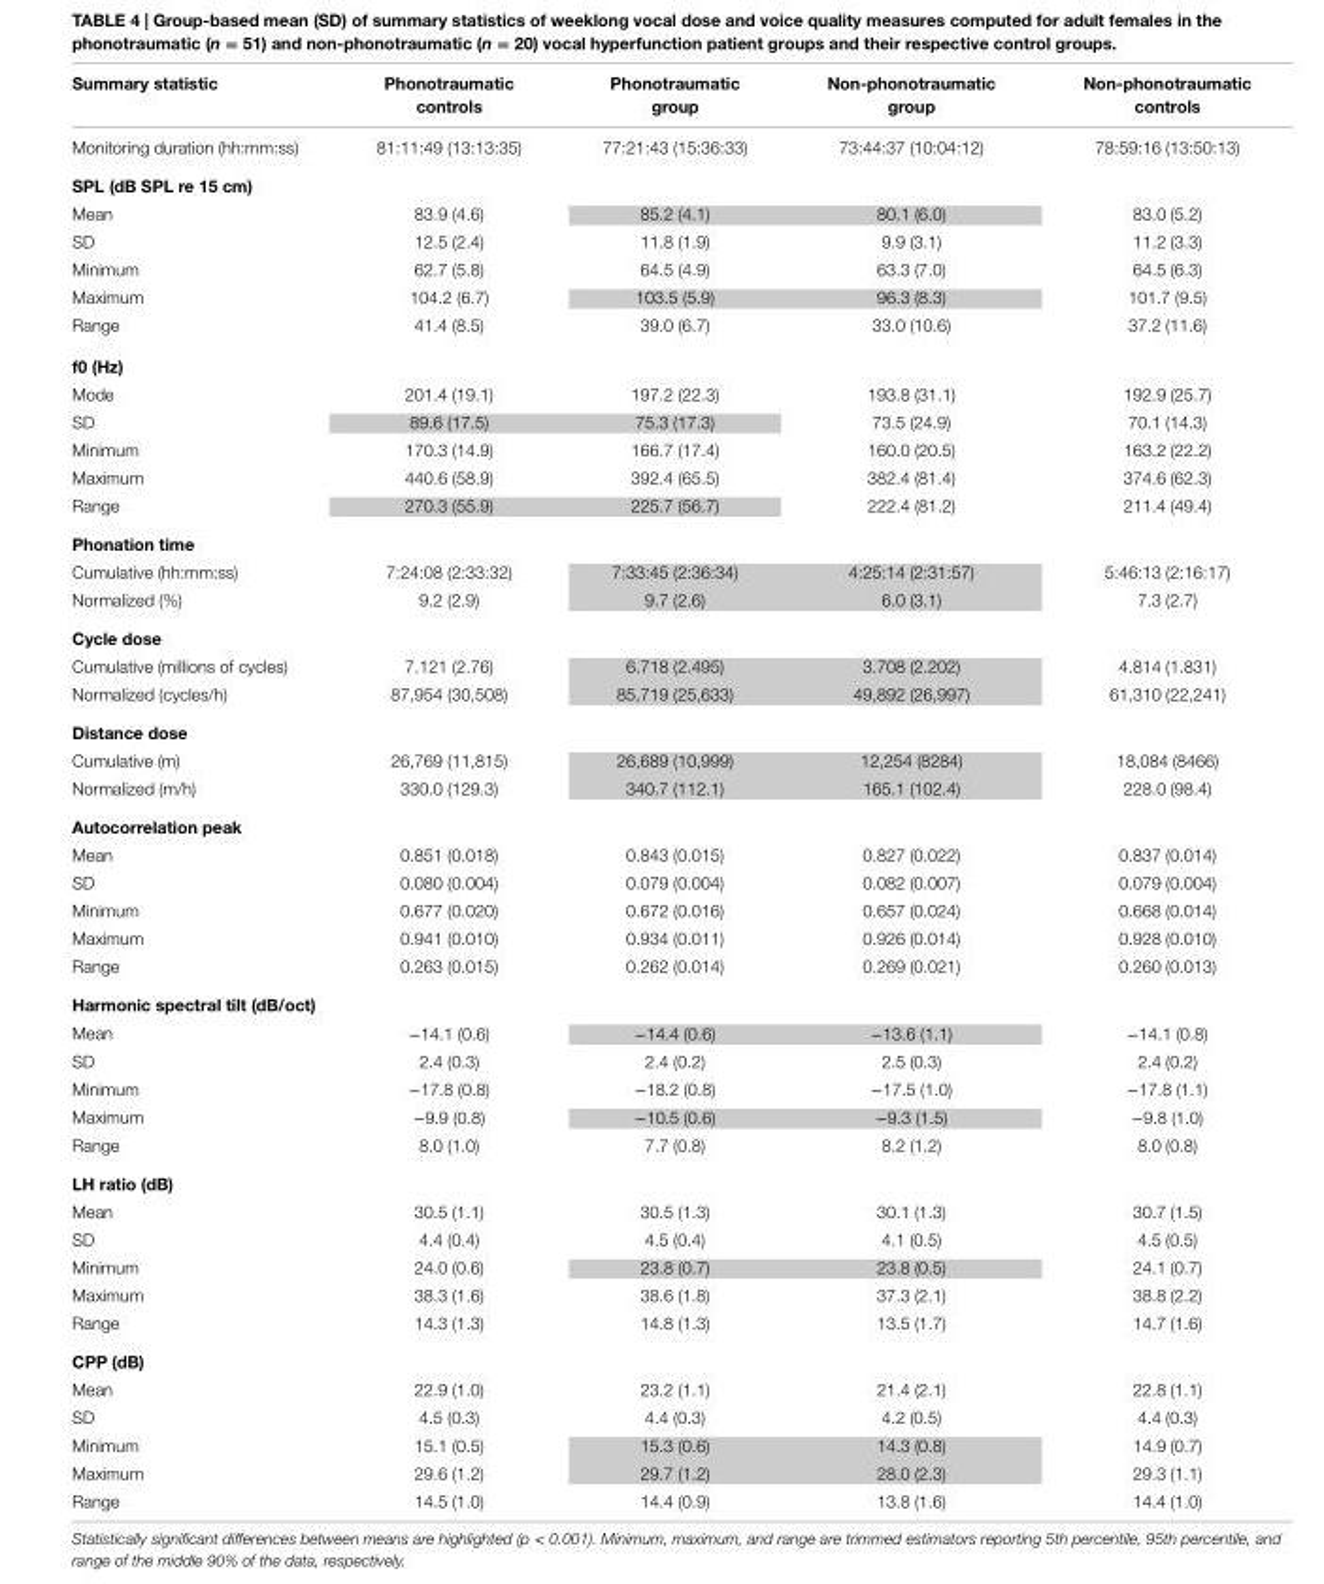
<table><thead><tr><td>summary statistic</td><td>Phonotraumatic controls</td><td>Phonotraumatic group</td><td>non-phonotraumatic group</td><td>non-phonotraumatic controls</td></tr></thead><tbody><tr><td>Monitoring duration (hh:mm:ss)</td><td>81:11:49 (13:13:35)</td><td>77:21:43 (15:36:33)</td><td>73:44:37 (10:04:12)</td><td>78:59:16 (13:50:13)</td></tr><tr><td colspan="5">sPl (dB sPl re 15 cm)</td></tr><tr><td>Mean</td><td>83.9 (4.6)</td><td>85.2 (4.1)</td><td>80.1 (6.0)</td><td>83.0 (5.2)</td></tr><tr><td>SD</td><td>12.5 (2.4)</td><td>11.8 (1.9)</td><td>9.9 (3.1)</td><td>11.2 (3.3)</td></tr><tr><td>Minimum</td><td>62.7 (5.8)</td><td>64.5 (4.9)</td><td>63.3 (7.0)</td><td>64.5 (6.3)</td></tr><tr><td>Maximum</td><td>104.2 (6.7)</td><td>103.5 (5.9)</td><td>96.3 (8.3)</td><td>101.7 (9.5)</td></tr><tr><td>Range</td><td>41.4 (8.5)</td><td>39.0 (6.7)</td><td>33.0 (10.6)</td><td>37.2 (11.6)</td></tr><tr><td colspan="5">f0 (hz)</td></tr><tr><td>Mode</td><td>201.4 (19.1)</td><td>197.2 (22.3)</td><td>193.8 (31.1)</td><td>192.9 (25.7)</td></tr><tr><td>SD</td><td>89.6 (17.5)</td><td>75.3 (17.3)</td><td>73.5 (24.9)</td><td>70.1 (14.3)</td></tr><tr><td>Minimum</td><td>170.3 (14.9)</td><td>166.7 (17.4)</td><td>160.0 (20.5)</td><td>163.2 (22.2)</td></tr><tr><td>Maximum</td><td>440.6 (58.9)</td><td>392.4 (65.5)</td><td>382.4 (81.4)</td><td>374.6 (62.3)</td></tr><tr><td>Range</td><td>270.3 (55.9)</td><td>225.7 (56.7)</td><td>222.4 (81.2)</td><td>211.4 (49.4)</td></tr><tr><td colspan="5">Phonation time</td></tr><tr><td>Cumulative (hh:mm:ss)</td><td>7:24:08 (2:33:32)</td><td>7:33:45 (2:36:34)</td><td>4:25:14 (2:31:57)</td><td>5:46:13 (2:16:17)</td></tr><tr><td>Normalized (%)</td><td>9.2 (2.9)</td><td>9.7 (2.6)</td><td>6.0 (3.1)</td><td>7.3 (2.7)</td></tr><tr><td colspan="5">cycle dose</td></tr><tr><td>Cumulative (millions of cycles)</td><td>7.121 (2.76)</td><td>6.718 (2.495)</td><td>3.708 (2.202)</td><td>4.814 (1.831)</td></tr><tr><td>Normalized (cycles/h)</td><td>87,954 (30,508)</td><td>85,719 (25,633)</td><td>49,892 (26,997)</td><td>61,310 (22,241)</td></tr><tr><td colspan="5">Distance dose</td></tr><tr><td>Cumulative (m)</td><td>26,769 (11,815)</td><td>26,689 (10,999)</td><td>12,254 (8284)</td><td>18,084 (8466)</td></tr><tr><td>Normalized (m/h)</td><td>330.0 (129.3)</td><td>340.7 (112.1)</td><td>165.1 (102.4)</td><td>228.0 (98.4)</td></tr><tr><td colspan="5">autocorrelation peak</td></tr><tr><td>Mean</td><td>0.851 (0.018)</td><td>0.843 (0.015)</td><td>0.827 (0.022)</td><td>0.837 (0.014)</td></tr><tr><td>SD</td><td>0.080 (0.004)</td><td>0.079 (0.004)</td><td>0.082 (0.007)</td><td>0.079 (0.004)</td></tr><tr><td>Minimum</td><td>0.677 (0.020)</td><td>0.672 (0.016)</td><td>0.657 (0.024)</td><td>0.668 (0.014)</td></tr><tr><td>Maximum</td><td>0.941 (0.010)</td><td>0.934 (0.011)</td><td>0.926 (0.014)</td><td>0.928 (0.010)</td></tr><tr><td>Range</td><td>0.263 (0.015)</td><td>0.262 (0.014)</td><td>0.269 (0.021)</td><td>0.260 (0.013)</td></tr><tr><td colspan="5">harmonic spectral tilt (dB/oct)</td></tr><tr><td>Mean</td><td>−14.1 (0.6)</td><td>−14.4 (0.6)</td><td>−13.6 (1.1)</td><td>−14.1 (0.8)</td></tr><tr><td>SD</td><td>2.4 (0.3)</td><td>2.4 (0.2)</td><td>2.5 (0.3)</td><td>2.4 (0.2)</td></tr><tr><td>Minimum</td><td>−17.8 (0.8)</td><td>−18.2 (0.8)</td><td>−17.5 (1.0)</td><td>−17.8 (1.1)</td></tr><tr><td>Maximum</td><td>−9.9 (0.8)</td><td>−10.5 (0.6)</td><td>−9.3 (1.5)</td><td>−9.8 (1.0)</td></tr><tr><td>Range</td><td>8.0 (1.0)</td><td>7.7 (0.8)</td><td>8.2 (1.2)</td><td>8.0 (0.8)</td></tr><tr><td colspan="5">lh ratio (dB)</td></tr><tr><td>Mean</td><td>30.5 (1.1)</td><td>30.5 (1.3)</td><td>30.1 (1.3)</td><td>30.7 (1.5)</td></tr><tr><td>SD</td><td>4.4 (0.4)</td><td>4.5 (0.4)</td><td>4.1 (0.5)</td><td>4.5 (0.5)</td></tr><tr><td>Minimum</td><td>24.0 (0.6)</td><td>23.8 (0.7)</td><td>23.8 (0.5)</td><td>24.1 (0.7)</td></tr><tr><td>Maximum</td><td>38.3 (1.6)</td><td>38.6 (1.8)</td><td>37.3 (2.1)</td><td>38.8 (2.2)</td></tr><tr><td>Range</td><td>14.3 (1.3)</td><td>14.8 (1.3)</td><td>13.5 (1.7)</td><td>14.7 (1.6)</td></tr><tr><td colspan="5">cPP (dB)</td></tr><tr><td>Mean</td><td>22.9 (1.0)</td><td>23.2 (1.1)</td><td>21.4 (2.1)</td><td>22.8 (1.1)</td></tr><tr><td>SD</td><td>4.5 (0.3)</td><td>4.4 (0.3)</td><td>4.2 (0.5)</td><td>4.4 (0.3)</td></tr><tr><td>Minimum</td><td>15.1 (0.5)</td><td>15.3 (0.6)</td><td>14.3 (0.8)</td><td>14.9 (0.7)</td></tr><tr><td>Maximum</td><td>29.6 (1.2)</td><td>29.7 (1.2)</td><td>28.0 (2.3)</td><td>29.3 (1.1)</td></tr><tr><td>Range</td><td>14.5 (1.0)</td><td>14.4 (0.9)</td><td>13.8 (1.6)</td><td>14.4 (1.0)</td></tr></tbody></table>